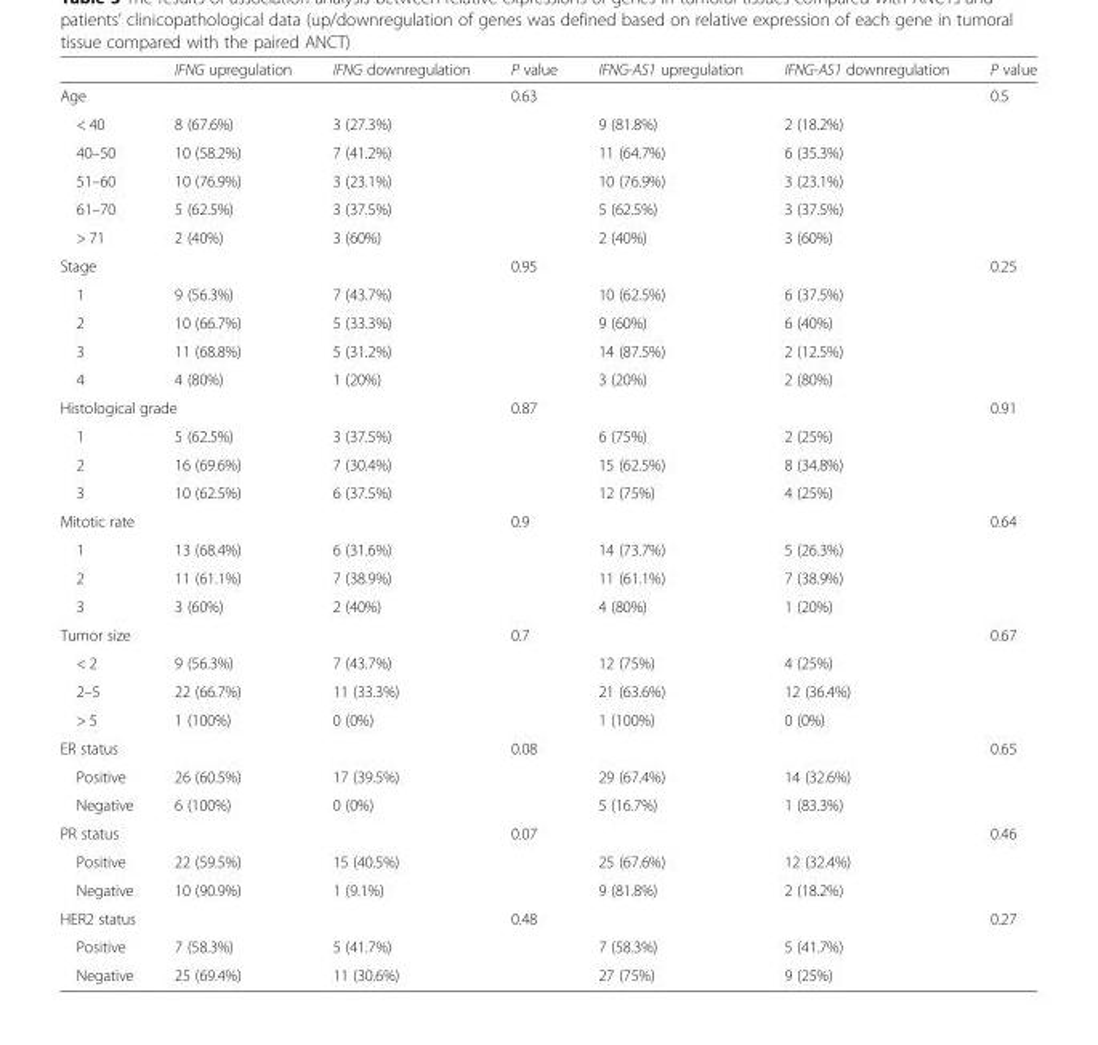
<table><thead><tr><td></td><td>IFNG upregulation</td><td>IFNG downregulation</td><td>P value</td><td>IFNG-AS1 upregulation</td><td>IFNG-AS1 downregulation</td><td>P value</td></tr></thead><tbody><tr><td colspan="3">Age</td><td>0.63</td><td colspan="2"></td><td>0.5</td></tr><tr><td>&lt; 40</td><td>8 (67.6%)</td><td>3 (27.3%)</td><td></td><td>9 (81.8%)</td><td>2 (18.2%)</td><td></td></tr><tr><td>40–50</td><td>10 (58.2%)</td><td>7 (41.2%)</td><td></td><td>11 (64.7%)</td><td>6 (35.3%)</td><td></td></tr><tr><td>51–60</td><td>10 (76.9%)</td><td>3 (23.1%)</td><td></td><td>10 (76.9%)</td><td>3 (23.1%)</td><td></td></tr><tr><td>61–70</td><td>5 (62.5%)</td><td>3 (37.5%)</td><td></td><td>5 (62.5%)</td><td>3 (37.5%)</td><td></td></tr><tr><td>&gt; 71</td><td>2 (40%)</td><td>3 (60%)</td><td></td><td>2 (40%)</td><td>3 (60%)</td><td></td></tr><tr><td colspan="3">Stage</td><td>0.95</td><td colspan="2"></td><td>0.25</td></tr><tr><td>1</td><td>9 (56.3%)</td><td>7 (43.7%)</td><td></td><td>10 (62.5%)</td><td>6 (37.5%)</td><td></td></tr><tr><td>2</td><td>10 (66.7%)</td><td>5 (33.3%)</td><td></td><td>9 (60%)</td><td>6 (40%)</td><td></td></tr><tr><td>3</td><td>11 (68.8%)</td><td>5 (31.2%)</td><td></td><td>14 (87.5%)</td><td>2 (12.5%)</td><td></td></tr><tr><td>4</td><td>4 (80%)</td><td>1 (20%)</td><td></td><td>3 (20%)</td><td>2 (80%)</td><td></td></tr><tr><td colspan="3">Histological grade</td><td>0.87</td><td colspan="2"></td><td>0.91</td></tr><tr><td>1</td><td>5 (62.5%)</td><td>3 (37.5%)</td><td></td><td>6 (75%)</td><td>2 (25%)</td><td></td></tr><tr><td>2</td><td>16 (69.6%)</td><td>7 (30.4%)</td><td></td><td>15 (62.5%)</td><td>8 (34.8%)</td><td></td></tr><tr><td>3</td><td>10 (62.5%)</td><td>6 (37.5%)</td><td></td><td>12 (75%)</td><td>4 (25%)</td><td></td></tr><tr><td colspan="3">Mitotic rate</td><td>0.9</td><td colspan="2"></td><td>0.64</td></tr><tr><td>1</td><td>13 (68.4%)</td><td>6 (31.6%)</td><td></td><td>14 (73.7%)</td><td>5 (26.3%)</td><td></td></tr><tr><td>2</td><td>11 (61.1%)</td><td>7 (38.9%)</td><td></td><td>11 (61.1%)</td><td>7 (38.9%)</td><td></td></tr><tr><td>3</td><td>3 (60%)</td><td>2 (40%)</td><td></td><td>4 (80%)</td><td>1 (20%)</td><td></td></tr><tr><td colspan="3">Tumor size</td><td>0.7</td><td colspan="2"></td><td>0.67</td></tr><tr><td>&lt; 2</td><td>9 (56.3%)</td><td>7 (43.7%)</td><td></td><td>12 (75%)</td><td>4 (25%)</td><td></td></tr><tr><td>2–5</td><td>22 (66.7%)</td><td>11 (33.3%)</td><td></td><td>21 (63.6%)</td><td>12 (36.4%)</td><td></td></tr><tr><td>&gt; 5</td><td>1 (100%)</td><td>0 (0%)</td><td></td><td>1 (100%)</td><td>0 (0%)</td><td></td></tr><tr><td colspan="3">ER status</td><td>0.08</td><td colspan="2"></td><td>0.65</td></tr><tr><td>Positive</td><td>26 (60.5%)</td><td>17 (39.5%)</td><td></td><td>29 (67.4%)</td><td>14 (32.6%)</td><td></td></tr><tr><td>Negative</td><td>6 (100%)</td><td>0 (0%)</td><td></td><td>5 (16.7%)</td><td>1 (83.3%)</td><td></td></tr><tr><td colspan="3">PR status</td><td>0.07</td><td colspan="2"></td><td>0.46</td></tr><tr><td>Positive</td><td>22 (59.5%)</td><td>15 (40.5%)</td><td></td><td>25 (67.6%)</td><td>12 (32.4%)</td><td></td></tr><tr><td>Negative</td><td>10 (90.9%)</td><td>1 (9.1%)</td><td></td><td>9 (81.8%)</td><td>2 (18.2%)</td><td></td></tr><tr><td colspan="3">HER2 status</td><td>0.48</td><td colspan="2"></td><td>0.27</td></tr><tr><td>Positive</td><td>7 (58.3%)</td><td>5 (41.7%)</td><td></td><td>7 (58.3%)</td><td>5 (41.7%)</td><td></td></tr><tr><td>Negative</td><td>25 (69.4%)</td><td>11 (30.6%)</td><td></td><td>27 (75%)</td><td>9 (25%)</td><td></td></tr></tbody></table>